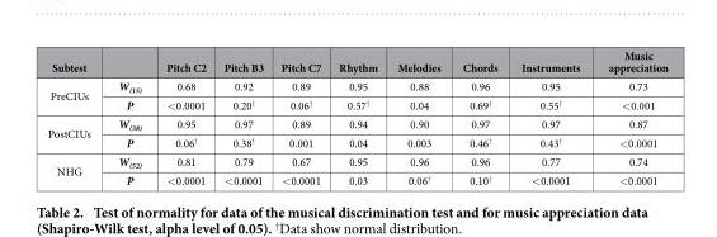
<table><thead><tr><td>Subtest</td><td></td><td>Pitch C2</td><td>Pitch B3</td><td>Pitch C7</td><td>Rhythm</td><td>Melodies</td><td>Chords</td><td>Instruments</td><td>Music appreciation</td></tr></thead><tbody><tr><td rowspan="2">PreCIUs</td><td>W<sub>(15)</sub></td><td>0.68</td><td>0.92</td><td>0.89</td><td>0.95</td><td>0.88</td><td>0.96</td><td>0.95</td><td>0.73</td></tr><tr><td>P</td><td>&lt; 0.0001</td><td>0.20†</td><td>0.06†</td><td>0.57†</td><td>0.04</td><td>0.69†</td><td>0.55†</td><td>&lt; 0.001</td></tr><tr><td rowspan="2">PostCIUs</td><td>W<sub>(38)</sub></td><td>0.95</td><td>0.97</td><td>0.89</td><td>0.94</td><td>0.90</td><td>0.97</td><td>0.97</td><td>0.87</td></tr><tr><td>P</td><td>0.06†</td><td>0.38†</td><td>0.001</td><td>0.04</td><td>0.003</td><td>0.46†</td><td>0.43†</td><td>&lt; 0.0001</td></tr><tr><td rowspan="2">NHG</td><td>W<sub>(52)</sub></td><td>0.81</td><td>0.79</td><td>0.67</td><td>0.95</td><td>0.96</td><td>0.96</td><td>0.77</td><td>0.74</td></tr><tr><td>P</td><td>&lt; 0.0001</td><td>&lt; 0.0001</td><td>&lt; 0.0001</td><td>0.03</td><td>0.06†</td><td>0.10†</td><td>&lt; 0.0001</td><td>&lt; 0.0001</td></tr></tbody></table>